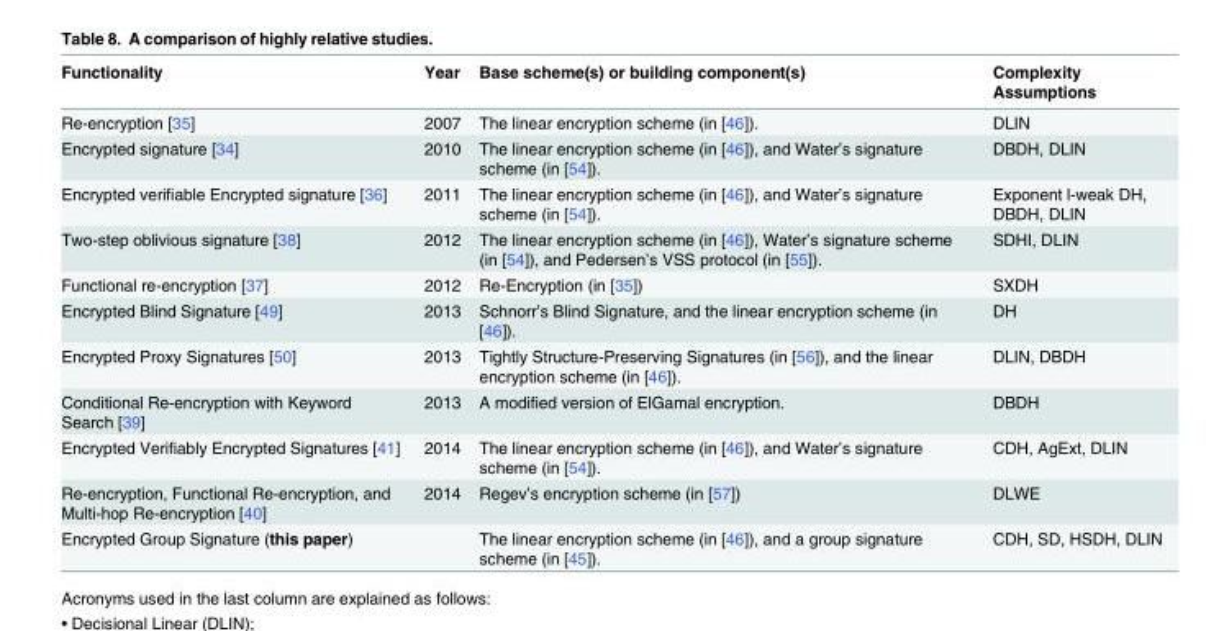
<table><thead><tr><td>Functionality</td><td>Year</td><td>Base scheme(s) or building component(s)</td><td>Complexity Assumptions</td></tr></thead><tbody><tr><td>Re-encryption [35]</td><td>2007</td><td>The linear encryption scheme (in [46]).</td><td>DLIN</td></tr><tr><td>Encrypted signature [34]</td><td>2010</td><td>The linear encryption scheme (in [46]), and Water’s signature scheme (in [54]).</td><td>DBDH, DLIN</td></tr><tr><td>Encrypted verifiable Encrypted signature [36]</td><td>2011</td><td>The linear encryption scheme (in [46]), and Water’s signature scheme (in [54]).</td><td>Exponent l-weak DH, DBDH, DLIN</td></tr><tr><td>Two-step oblivious signature [38]</td><td>2012</td><td>The linear encryption scheme (in [46]), Water’s signature scheme (in [54]), and Pedersen’s VSS protocol (in [55]).</td><td>SDHI, DLIN</td></tr><tr><td>Functional re-encryption [37]</td><td>2012</td><td>Re-Encryption (in [35])</td><td>SXDH</td></tr><tr><td>Encrypted Blind Signature [49]</td><td>2013</td><td>Schnorr’s Blind Signature, and the linear encryption scheme (in [46]).</td><td>DH</td></tr><tr><td>Encrypted Proxy Signatures [50]</td><td>2013</td><td>Tightly Structure-Preserving Signatures (in [56]), and the linear encryption scheme (in [46]).</td><td>DLIN, DBDH</td></tr><tr><td>Conditional Re-encryption with Keyword Search [39]</td><td>2013</td><td>A modified version of ElGamal encryption.</td><td>DBDH</td></tr><tr><td>Encrypted Verifiably Encrypted Signatures [41]</td><td>2014</td><td>The linear encryption scheme (in [46]), and Water’s signature scheme (in [54]).</td><td>CDH, AgExt, DLIN</td></tr><tr><td>Re-encryption, Functional Re-encryption, and Multi-hop Re-encryption [40]</td><td>2014</td><td>Regev’s encryption scheme (in [57])</td><td>DLWE</td></tr><tr><td>Encrypted Group Signature (this paper)</td><td></td><td>The linear encryption scheme (in [46]), and a group signature scheme (in [45]).</td><td>CDH, SD, HSDH, DLIN</td></tr></tbody></table>